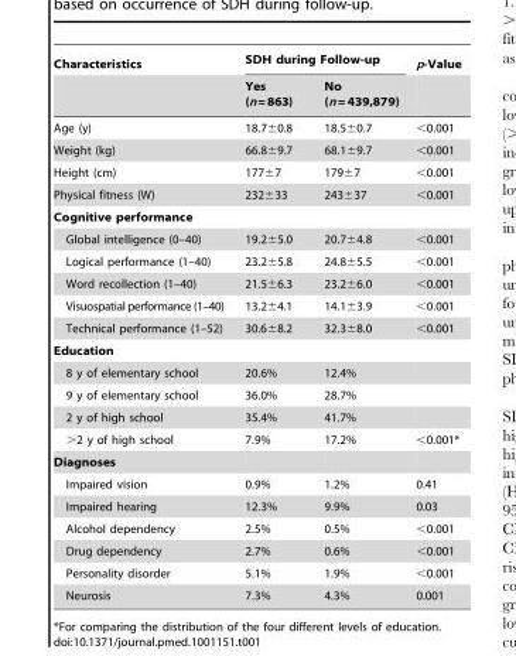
<table><thead><tr><td rowspan="2">Characteristics</td><td colspan="2">SDH during Follow-up</td><td rowspan="2">p-Value</td></tr><tr><td>Yes (n=863)</td><td>No (n = 439,879)</td></tr></thead><tbody><tr><td>Age (y)</td><td>18.7±0.8</td><td>18.5±0.7</td><td>&lt;0.001</td></tr><tr><td>Weight (kg)</td><td>66.8±9.7</td><td>68.1±9.7</td><td>&lt;0.001</td></tr><tr><td>Height (cm)</td><td>177±7</td><td>179±7</td><td>&lt;0.001</td></tr><tr><td>Physical fitness (W)</td><td>232±33</td><td>243±37</td><td>&lt;0.001</td></tr><tr><td colspan="4">Cognitive performance</td></tr><tr><td>Global intelligence (0–40)</td><td>19.2±5.0</td><td>20.7±4.8</td><td>&lt;0.001</td></tr><tr><td>Logical performance (1–40)</td><td>23.2±5.8</td><td>24.8±5.5</td><td>&lt;0.001</td></tr><tr><td>Word recollection (1–40)</td><td>21.5±6.3</td><td>23.2±6.0</td><td>&lt;0.001</td></tr><tr><td>Visuospatial performance (1–40)</td><td>13.2±4.1</td><td>14.1±3.9</td><td>&lt;0.001</td></tr><tr><td>Technical performance (1–52)</td><td>30.6±8.2</td><td>32.3±8.0</td><td>&lt;0.001</td></tr><tr><td colspan="4">Education</td></tr><tr><td>8 y of elementary school</td><td>20.6%</td><td>12.4%</td><td></td></tr><tr><td>9 y of elementary school</td><td>36.0%</td><td>28.7%</td><td></td></tr><tr><td>2 y of high school</td><td>35.4%</td><td>41.7%</td><td></td></tr><tr><td>&gt;2 y of high school</td><td>7.9%</td><td>17.2%</td><td>&lt;0.001*</td></tr><tr><td colspan="4">Diagnoses</td></tr><tr><td>Impaired vision</td><td>0.9%</td><td>1.2%</td><td>0.41</td></tr><tr><td>Impaired hearing</td><td>12.3%</td><td>9.9%</td><td>0.03</td></tr><tr><td>Alcohol dependency</td><td>2.5%</td><td>0.5%</td><td>&lt;0.001</td></tr><tr><td>Drug dependency</td><td>2.7%</td><td>0.6%</td><td>&lt;0.001</td></tr><tr><td>Personality disorder</td><td>5.1%</td><td>1.9%</td><td>&lt;0.001</td></tr><tr><td>Neurosis</td><td>7.3%</td><td>4.3%</td><td>0.001</td></tr></tbody></table>